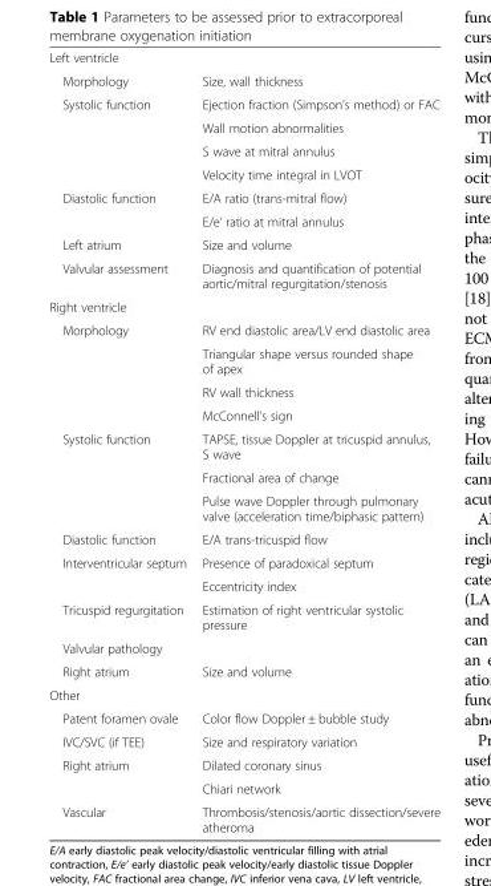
<table><tbody><tr><td colspan="2">Left ventricle</td></tr><tr><td>Morphology</td><td>Size, wall thickness</td></tr><tr><td rowspan="4">Systolic function</td><td>Ejection fraction (Simpson’s method) or FAC</td></tr><tr><td>Wall motion abnormalities</td></tr><tr><td>S wave at mitral annulus</td></tr><tr><td>Velocity time integral in LVOT</td></tr><tr><td rowspan="2">Diastolic function</td><td>E/A ratio (trans-mitral flow)</td></tr><tr><td>E/e’ ratio at mitral annulus</td></tr><tr><td>Left atrium</td><td>Size and volume</td></tr><tr><td>Valvular assessment</td><td>Diagnosis and quantification of potential aortic/mitral regurgitation/stenosis</td></tr><tr><td colspan="2">Right ventricle</td></tr><tr><td rowspan="4">Morphology</td><td>RV end diastolic area/LV end diastolic area</td></tr><tr><td>Triangular shape versus rounded shape of apex</td></tr><tr><td>RV wall thickness</td></tr><tr><td>McConnell’s sign</td></tr><tr><td rowspan="3">Systolic function</td><td>TAPSE, tissue Doppler at tricuspid annulus, S wave</td></tr><tr><td>Fractional area of change</td></tr><tr><td>Pulse wave Doppler through pulmonary valve (acceleration time/biphasic pattern)</td></tr><tr><td>Diastolic function</td><td>E/A trans-tricuspid flow</td></tr><tr><td rowspan="2">Interventricular septum</td><td>Presence of paradoxical septum</td></tr><tr><td>Eccentricity index</td></tr><tr><td>Tricuspid regurgitation</td><td>Estimation of right ventricular systolic pressure</td></tr><tr><td colspan="2">Valvular pathology</td></tr><tr><td>Right atrium</td><td>Size and volume</td></tr><tr><td colspan="2">Other</td></tr><tr><td>Patent foramen ovale</td><td>Color flow Doppler ± bubble study</td></tr><tr><td>IVC/SVC (if TEE)</td><td>Size and respiratory variation</td></tr><tr><td rowspan="2">Right atrium</td><td>Dilated coronary sinus</td></tr><tr><td>Chiari network</td></tr><tr><td>Vascular</td><td>Thrombosis/stenosis/aortic dissection/severe atheroma</td></tr></tbody></table>